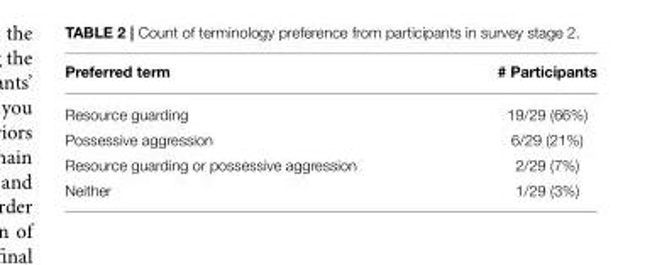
<table><thead><tr><td>Preferred term</td><td># Participants</td></tr></thead><tbody><tr><td>Resource guarding</td><td>19/29 (66%)</td></tr><tr><td>Possessive aggression</td><td>6/29 (21%)</td></tr><tr><td>Resource guarding or possessive aggression</td><td>2/29 (7%)</td></tr><tr><td>Neither</td><td>1/29 (3%)</td></tr></tbody></table>